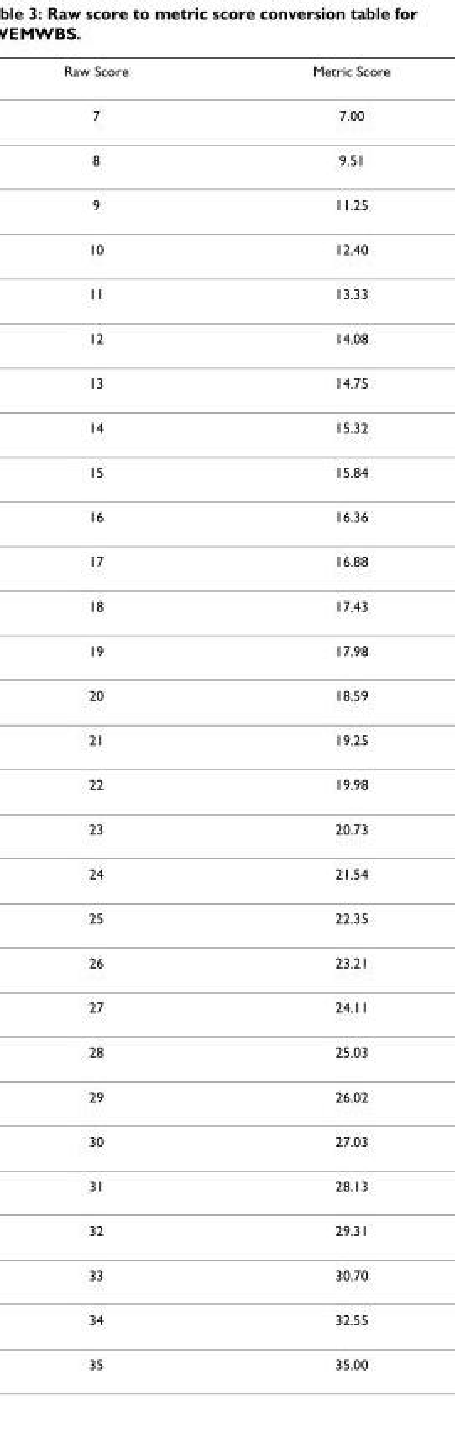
<table><thead><tr><td>Raw Score</td><td>Metric Score</td></tr></thead><tbody><tr><td>7</td><td>7.00</td></tr><tr><td>8</td><td>9.51</td></tr><tr><td>9</td><td>11.25</td></tr><tr><td>10</td><td>12.40</td></tr><tr><td>11</td><td>13.33</td></tr><tr><td>12</td><td>14.08</td></tr><tr><td>13</td><td>14.75</td></tr><tr><td>14</td><td>15.32</td></tr><tr><td>15</td><td>15.84</td></tr><tr><td>16</td><td>16.36</td></tr><tr><td>17</td><td>16.88</td></tr><tr><td>18</td><td>17.43</td></tr><tr><td>19</td><td>17.98</td></tr><tr><td>20</td><td>18.59</td></tr><tr><td>21</td><td>19.25</td></tr><tr><td>22</td><td>19.98</td></tr><tr><td>23</td><td>20.73</td></tr><tr><td>24</td><td>21.54</td></tr><tr><td>25</td><td>22.35</td></tr><tr><td>26</td><td>23.21</td></tr><tr><td>27</td><td>24.11</td></tr><tr><td>28</td><td>25.03</td></tr><tr><td>29</td><td>26.02</td></tr><tr><td>30</td><td>27.03</td></tr><tr><td>31</td><td>28.13</td></tr><tr><td>32</td><td>29.31</td></tr><tr><td>33</td><td>30.70</td></tr><tr><td>34</td><td>32.55</td></tr><tr><td>35</td><td>35.00</td></tr></tbody></table>